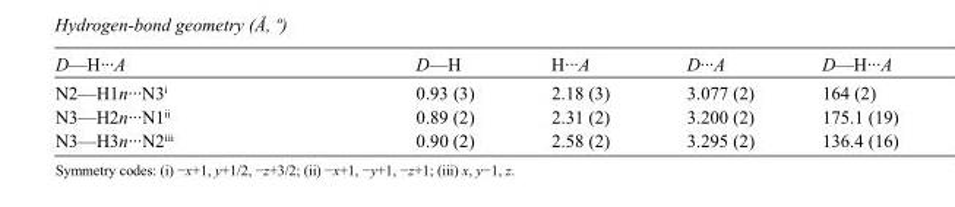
<table><tbody><tr><td>D—H···A</td><td>D—H</td><td>H···A</td><td>D···A</td><td>D—H···A</td></tr><tr><td>N2—H1n···N3<sup>i</sup></td><td>0.93 (3)</td><td>2.18 (3)</td><td>3.077 (2)</td><td>164 (2)</td></tr><tr><td>N3—H2n···N1<sup>ii</sup></td><td>0.89 (2)</td><td>2.31 (2)</td><td>3.200 (2)</td><td>175.1 (19)</td></tr><tr><td>N3—H3n···N2<sup>iii</sup></td><td>0.90 (2)</td><td>2.58 (2)</td><td>3.295 (2)</td><td>136.4 (16)</td></tr></tbody></table>